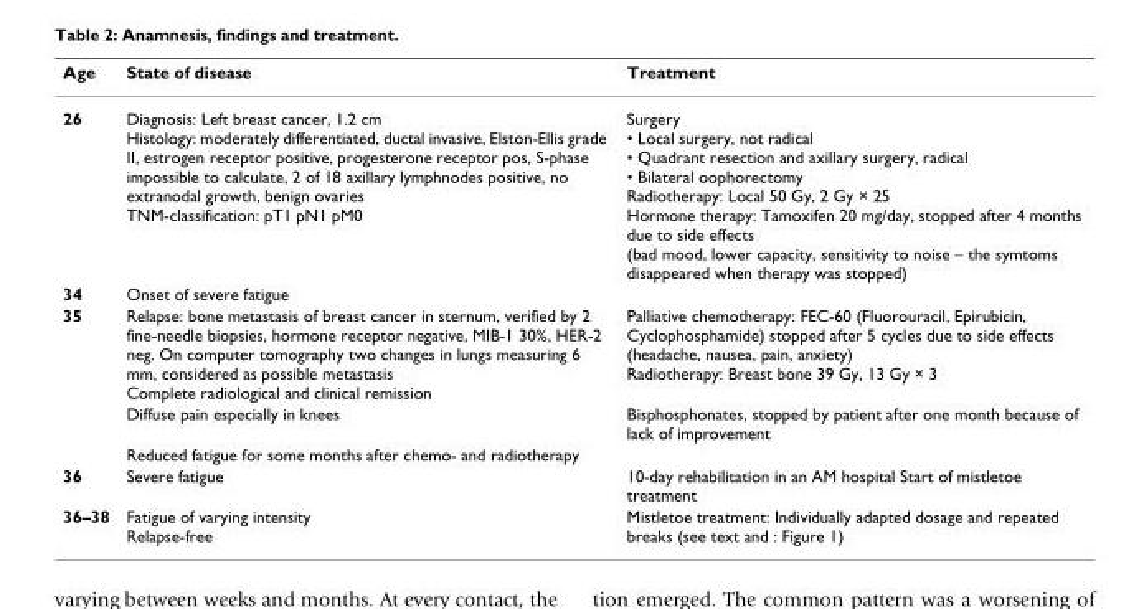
<table><thead><tr><td>Age</td><td>State of disease</td><td>Treatment</td></tr></thead><tbody><tr><td>26</td><td>Diagnosis: Left breast cancer, 1.2 cm Histology: moderately differentiated, ductal invasive, Elston-Ellis grade II, estrogen receptor positive, progesterone receptor pos, S-phase impossible to calculate, 2 of 18 axillary lymphnodes positive, no extranodal growth, benign ovaries TNM-classification: pT1 pN1 pM0</td><td>Surgery • Local surgery, not radical • Quadrant resection and axillary surgery, radical • Bilateral oophorectomy Radiotherapy: Local 50 Gy, 2 Gy × 25 Hormone therapy: Tamoxifen 20 mg/day, stopped after 4 months due to side effects (bad mood, lower capacity, sensitivity to noise – the symtoms disappeared when therapy was stopped)</td></tr><tr><td>34</td><td>Onset of severe fatigue</td><td></td></tr><tr><td rowspan="3">35</td><td>Relapse: bone metastasis of breast cancer in sternum, verified by 2 fine-needle biopsies, hormone receptor negative, MIB-1 30%, HER-2 neg. On computer tomography two changes in lungs measuring 6 mm, considered as possible metastasis Complete radiological and clinical remission</td><td>Palliative chemotherapy: FEC-60 (Fluorouracil, Epirubicin, Cyclophosphamide) stopped after 5 cycles due to side effects (headache, nausea, pain, anxiety) Radiotherapy: Breast bone 39 Gy, 13 Gy × 3</td></tr><tr><td>Diffuse pain especially in knees</td><td>Bisphosphonates, stopped by patient after one month because of lack of improvement</td></tr><tr><td>Reduced fatigue for some months after chemo- and radiotherapy</td><td></td></tr><tr><td>36</td><td>Severe fatigue</td><td>10-day rehabilitation in an AM hospital Start of mistletoe treatment</td></tr><tr><td>36–38</td><td>Fatigue of varying intensity Relapse-free</td><td>Mistletoe treatment: Individually adapted dosage and repeated breaks (see text and : Figure 1)</td></tr></tbody></table>